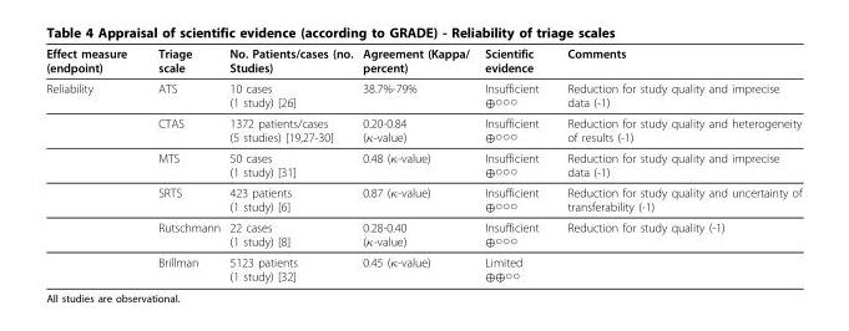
<table><thead><tr><td>Effect measure (endpoint)</td><td>Triage scale</td><td>No. Patients/cases (no. Studies)</td><td>Agreement (Kappa/ percent)</td><td>Scientific evidence</td><td>Comments</td></tr></thead><tbody><tr><td rowspan="6">Reliability</td><td>ATS</td><td>10 cases (1 study) [26]</td><td>38.7%-79%</td><td>Insufficient ⊕○○○</td><td>Reduction for study quality and imprecise data (-1)</td></tr><tr><td>CTAS</td><td>1372 patients/cases (5 studies) [19,27-30]</td><td>0.20-0.84 (κ-value)</td><td>Insufficient ⊕○○○</td><td>Reduction for study quality and heterogeneity of results (-1)</td></tr><tr><td>MTS</td><td>50 cases (1 study) [31]</td><td>0.48 (κ-value)</td><td>Insufficient ⊕○○○</td><td>Reduction for study quality and imprecise data (-1)</td></tr><tr><td>SRTS</td><td>423 patients (1 study) [6]</td><td>0.87 (κ-value)</td><td>Insufficient ⊕○○○</td><td>Reduction for study quality and uncertainty of transferability (-1)</td></tr><tr><td>Rutschmann</td><td>22 cases (1 study) [8]</td><td>0.28-0.40 (κ-value)</td><td>Insufficient ⊕○○○</td><td>Reduction for study quality (-1)</td></tr><tr><td>Brillman</td><td>5123 patients (1 study) [32]</td><td>0.45 (κ-value)</td><td>Limited ⊕⊕○○</td><td></td></tr></tbody></table>